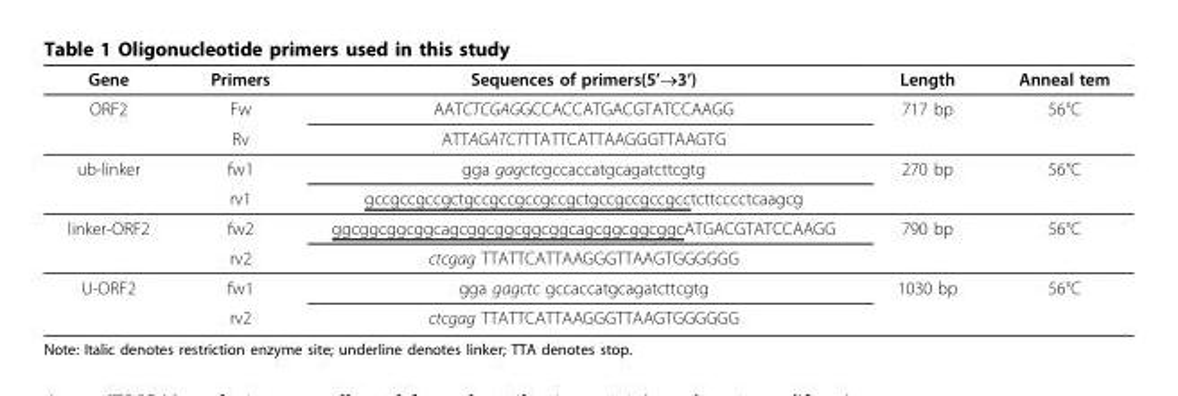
<table><thead><tr><td>Gene</td><td>Primers</td><td>Sequences of primers(5’→3’)</td><td>Length</td><td>Anneal tem</td></tr></thead><tbody><tr><td rowspan="2">ORF2</td><td>Fw</td><td>AATCTCGAGGCCACCATGACGTATCCAAGG</td><td>717 bp</td><td>56°C</td></tr><tr><td>Rv</td><td>ATTAGATCTTTATTCATTAAGGGTTAAGTG</td><td></td><td></td></tr><tr><td rowspan="2">ub-linker</td><td>fw1</td><td>gga gagctcgccaccatgcagatcttcgtg</td><td>270 bp</td><td>56°C</td></tr><tr><td>rv1</td><td>gccgccgccgctgccgccgccgccgctgccgccgccgcctcttcccctcaagcg</td><td></td><td></td></tr><tr><td rowspan="2">linker-ORF2</td><td>fw2</td><td>ggcggcggcggcagcggcggcggcggcagcggcggcggcATGACGTATCCAAGG</td><td>790 bp</td><td>56°C</td></tr><tr><td>rv2</td><td>ctcgag TTATTCATTAAGGGTTAAGTGGGGGG</td><td></td><td></td></tr><tr><td rowspan="2">U-ORF2</td><td>fw1</td><td>gga gagctc gccaccatgcagatcttcgtg</td><td>1030 bp</td><td>56°C</td></tr><tr><td>rv2</td><td>ctcgag TTATTCATTAAGGGTTAAGTGGGGGG</td><td></td><td></td></tr></tbody></table>